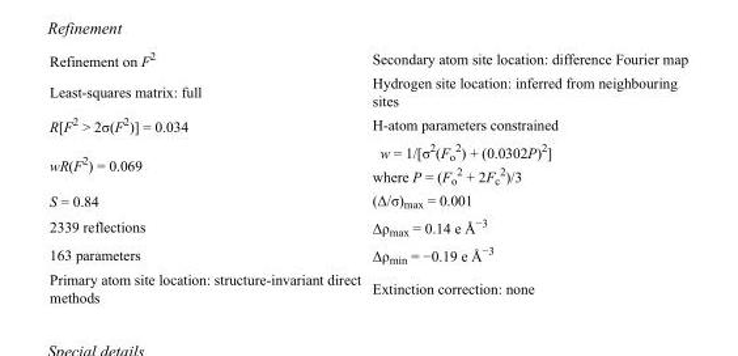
<table><tbody><tr><td>Refinement on F<sup>2</sup></td><td>Secondary atom site location: difference Fourier map</td></tr><tr><td>Least-squares matrix: full</td><td>Hydrogen site location: inferred from neighbouring sites</td></tr><tr><td>R[F<sup>2</sup> &gt; 2σ(F<sup>2</sup>)] = 0.034</td><td>H-atom parameters constrained</td></tr><tr><td>wR(F<sup>2</sup>) = 0.069</td><td>w = 1/[σ<sup>2</sup>(F<sub>o</sub> <sup>2</sup>) + (0.0302P)<sup>2</sup>] where P = (F<sub>o</sub> <sup>2</sup> + 2F<sub>c</sub> <sup>2</sup>)/3</td></tr><tr><td>S = 0.84</td><td>(Δ/σ)<sub>max</sub> = 0.001</td></tr><tr><td>2339 reflections</td><td>Δρ<sub>max</sub> = 0.14 e Å<sup>−3</sup></td></tr><tr><td>163 parameters</td><td>Δρ<sub>min</sub> = −0.19 e Å<sup>−3</sup></td></tr><tr><td>Primary atom site location: structure-invariant direct methods</td><td>Extinction correction: none</td></tr></tbody></table>